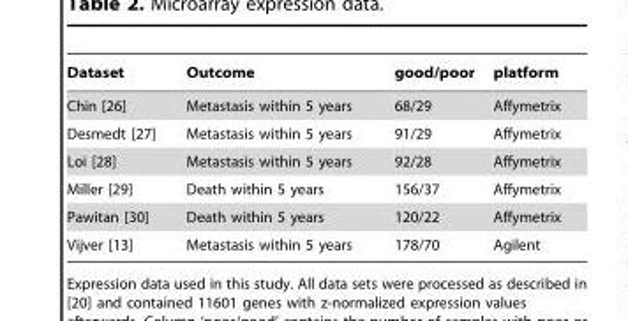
<table><thead><tr><td>Dataset</td><td>Outcome</td><td>good/poor</td><td>platform</td></tr></thead><tbody><tr><td>Chin [26]</td><td>Metastasis within 5 years</td><td>68/29</td><td>Affymetrix</td></tr><tr><td>Desmedt [27]</td><td>Metastasis within 5 years</td><td>91/29</td><td>Affymetrix</td></tr><tr><td>Loi [28]</td><td>Metastasis within 5 years</td><td>92/28</td><td>Affymetrix</td></tr><tr><td>Miller [29]</td><td>Death within 5 years</td><td>156/37</td><td>Affymetrix</td></tr><tr><td>Pawitan [30]</td><td>Death within 5 years</td><td>120/22</td><td>Affymetrix</td></tr><tr><td>Vijver [13]</td><td>Metastasis within 5 years</td><td>178/70</td><td>Agilent</td></tr></tbody></table>